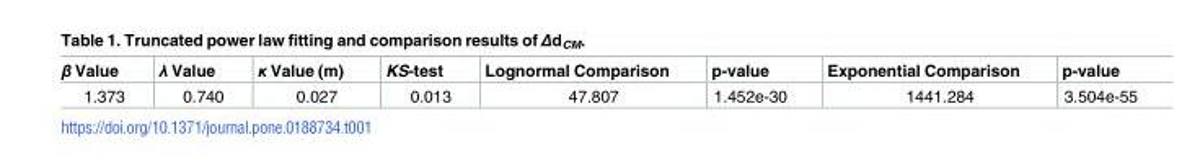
<table><thead><tr><td>β Value</td><td>λ Value</td><td>κ Value (m)</td><td>KS-test</td><td>Lognormal Comparison</td><td>p-value</td><td>Exponential Comparison</td><td>p-value</td></tr></thead><tbody><tr><td>1.373</td><td>0.740</td><td>0.027</td><td>0.013</td><td>47.807</td><td>1.452e-30</td><td>1441.284</td><td>3.504e-55</td></tr></tbody></table>